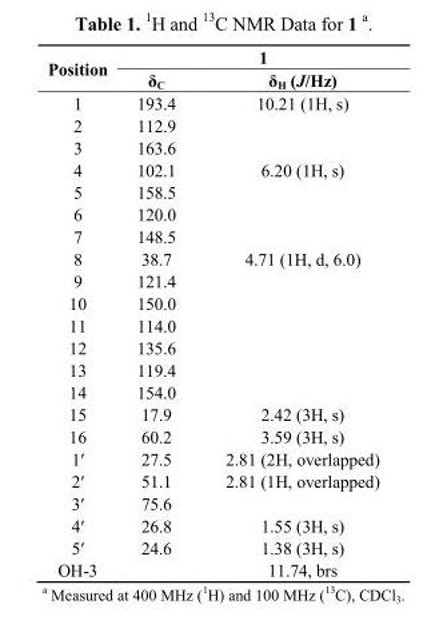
<table><thead><tr><td rowspan="2">Position</td><td colspan="2">1</td></tr><tr><td>δ<sub>C</sub></td><td>δ<sub>H</sub> (J/Hz)</td></tr></thead><tbody><tr><td>1</td><td>193.4</td><td>10.21 (1H, s)</td></tr><tr><td>2</td><td>112.9</td><td></td></tr><tr><td>3</td><td>163.6</td><td></td></tr><tr><td>4</td><td>102.1</td><td>6.20 (1H, s)</td></tr><tr><td>5</td><td>158.5</td><td></td></tr><tr><td>6</td><td>120.0</td><td></td></tr><tr><td>7</td><td>148.5</td><td></td></tr><tr><td>8</td><td>38.7</td><td>4.71 (1H, d, 6.0)</td></tr><tr><td>9</td><td>121.4</td><td></td></tr><tr><td>10</td><td>150.0</td><td></td></tr><tr><td>11</td><td>114.0</td><td></td></tr><tr><td>12</td><td>135.6</td><td></td></tr><tr><td>13</td><td>119.4</td><td></td></tr><tr><td>14</td><td>154.0</td><td></td></tr><tr><td>15</td><td>17.9</td><td>2.42 (3H, s)</td></tr><tr><td>16</td><td>60.2</td><td>3.59 (3H, s)</td></tr><tr><td>1′</td><td>27.5</td><td>2.81 (2H, overlapped)</td></tr><tr><td>2′</td><td>51.1</td><td>2.81 (1H, overlapped)</td></tr><tr><td>3′</td><td>75.6</td><td></td></tr><tr><td>4′</td><td>26.8</td><td>1.55 (3H, s)</td></tr><tr><td>5′</td><td>24.6</td><td>1.38 (3H, s)</td></tr><tr><td>OH-3</td><td></td><td>11.74, brs</td></tr></tbody></table>